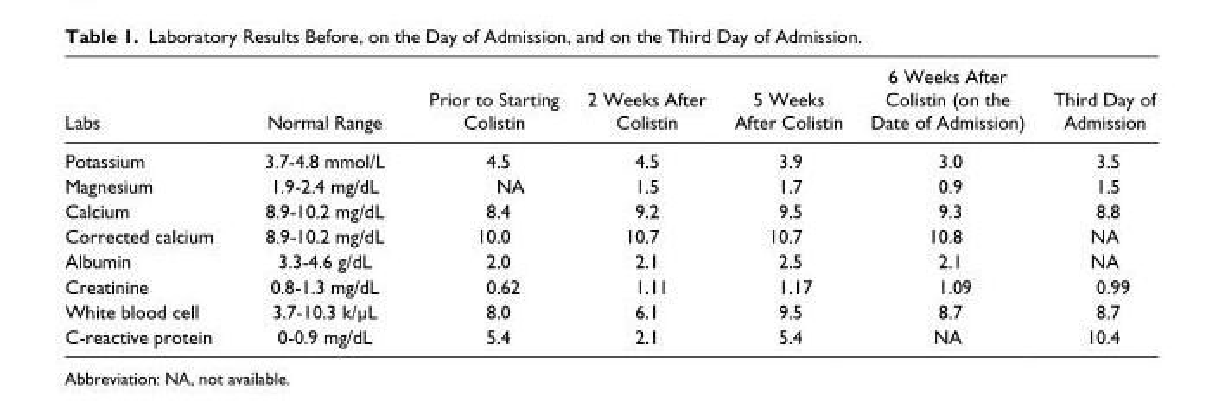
<table><thead><tr><td>Labs</td><td>Normal Range</td><td>Prior to Starting Colistin</td><td>2 Weeks After Colistin</td><td>5 Weeks After Colistin</td><td>6 Weeks After Colistin (on the Date of Admission)</td><td>Third Day of Admission</td></tr></thead><tbody><tr><td>Potassium</td><td>3.7-4.8 mmol/L</td><td>4.5</td><td>4.5</td><td>3.9</td><td>3.0</td><td>3.5</td></tr><tr><td>Magnesium</td><td>1.9-2.4 mg/dL</td><td>NA</td><td>1.5</td><td>1.7</td><td>0.9</td><td>1.5</td></tr><tr><td>Calcium</td><td>8.9-10.2 mg/dL</td><td>8.4</td><td>9.2</td><td>9.5</td><td>9.3</td><td>8.8</td></tr><tr><td>Corrected calcium</td><td>8.9-10.2 mg/dL</td><td>10.0</td><td>10.7</td><td>10.7</td><td>10.8</td><td>NA</td></tr><tr><td>Albumin</td><td>3.3-4.6 g/dL</td><td>2.0</td><td>2.1</td><td>2.5</td><td>2.1</td><td>NA</td></tr><tr><td>Creatinine</td><td>0.8-1.3 mg/dL</td><td>0.62</td><td>1.11</td><td>1.17</td><td>1.09</td><td>0.99</td></tr><tr><td>White blood cell</td><td>3.7-10.3 k/µL</td><td>8.0</td><td>6.1</td><td>9.5</td><td>8.7</td><td>8.7</td></tr><tr><td>C-reactive protein</td><td>0-0.9 mg/dL</td><td>5.4</td><td>2.1</td><td>5.4</td><td>NA</td><td>10.4</td></tr></tbody></table>